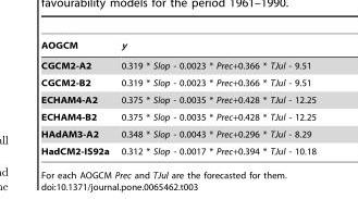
<table><thead><tr><td>AOGCM</td><td>y</td></tr></thead><tbody><tr><td>CGCM2-A2</td><td>0.319 * Slop - 0.0023 * Prec+0.366 * TJul - 9.51</td></tr><tr><td>CGCM2-B2</td><td>0.319 * Slop - 0.0023 * Prec+0.366 * TJul - 9.51</td></tr><tr><td>ECHAM4-A2</td><td>0.375 * Slop - 0.0035 * Prec+0.428 * TJul - 12.25</td></tr><tr><td>ECHAM4-B2</td><td>0.375 * Slop - 0.0035 * Prec+0.428 * TJul - 12.25</td></tr><tr><td>HAdAM3-A2</td><td>0.348 * Slop - 0.0043 * Prec+0.296 * TJul - 8.29</td></tr><tr><td>HadCM2-IS92a</td><td>0.312 * Slop - 0.0017 * Prec+0.394 * TJul - 10.18</td></tr></tbody></table>